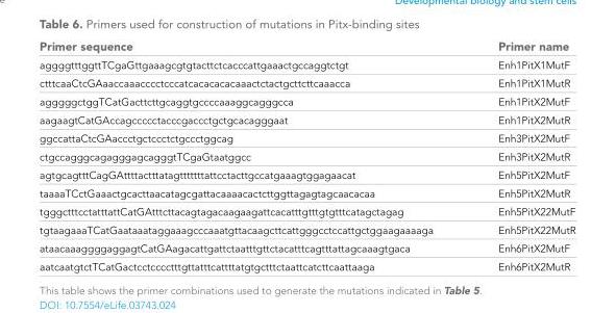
<table><thead><tr><td>Primer sequence</td><td>Primer name</td></tr></thead><tbody><tr><td>aggggtttggttTCgaGttgaaagcgtgtacttctcacccattgaaactgccaggtctgt</td><td>Enh1PitX1MutF</td></tr><tr><td>ctttcaaCtcGAaaccaaacccctcccatcacacacacaaactctactgcttcttcaaacca</td><td>Enh1PitX1MutR</td></tr><tr><td>agggggctggTCatGacttcttgcaggtgccccaaaggcagggcca</td><td>Enh1PitX2MutF</td></tr><tr><td>aagaagtCatGAccagccccctacccgaccctgctgcacagggaat</td><td>Enh1PitX2MutR</td></tr><tr><td>ggccattaCtcGAaccctgctccctctgccctggcag</td><td>Enh3PitX2MutF</td></tr><tr><td>ctgccagggcagagggagcagggtTCgaGtaatggcc</td><td>Enh3PitX2MutR</td></tr><tr><td>agtgcagtttCagGAttttactttatagtttttttattcctacttgccatgaaagtggagaacat</td><td>Enh5PitX2MutF</td></tr><tr><td>taaaaTCctGaaactgcacttaacatagcgattacaaaacactcttggttagagtagcaacacaa</td><td>Enh5PitX2MutR</td></tr><tr><td>tgggctttcctatttattCatGAtttcttacagtagacaagaagattcacatttgtttgtgtttcatagctagag</td><td>Enh5PitX22MutF</td></tr><tr><td>tgtaagaaaTCatGaataaataggaaagcccaaatgttacaagcttcattgggcctccattgctggaagaaaaga</td><td>Enh5PitX22MutR</td></tr><tr><td>ataacaaaggggaggagtCatGAagacattgattctaatttgttctacatttcagtttattagcaaagtgaca</td><td>Enh6PitX2MutF</td></tr><tr><td>aatcaatgtctTCatGactcctcccctttgttatttcattttatgtgctttctaattcatcttcaattaaga</td><td>Enh6PitX2MutR</td></tr></tbody></table>